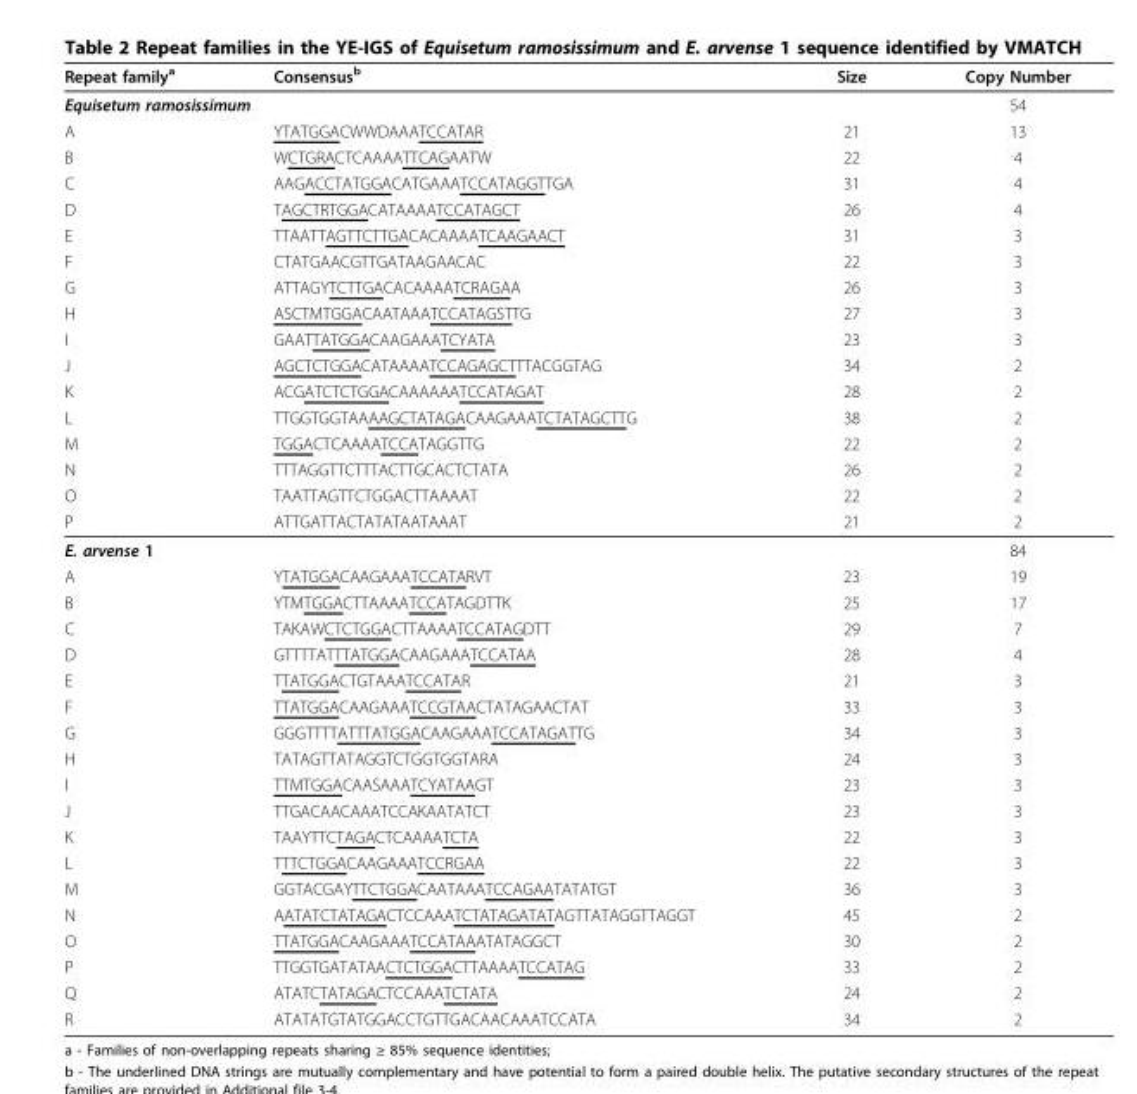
<table><thead><tr><td>Repeat family<sup>a</sup></td><td>Consensus<sup>b</sup></td><td>Size</td><td>Copy Number</td></tr></thead><tbody><tr><td colspan="2">Equisetum ramosissimum</td><td></td><td>54</td></tr><tr><td>A</td><td>YTATGGACWWDAAATCCATAR</td><td>21</td><td>13</td></tr><tr><td>B</td><td>WCTGRACTCAAAATTCAGAATW</td><td>22</td><td>4</td></tr><tr><td>C</td><td>AAGACCTATGGACATGAAATCCATAGGTTGA</td><td>31</td><td>4</td></tr><tr><td>D</td><td>TAGCTRTGGACATAAAATCCATAGCT</td><td>26</td><td>4</td></tr><tr><td>E</td><td>TTAATTAGTTCTTGACACAAAATCAAGAACT</td><td>31</td><td>3</td></tr><tr><td>F</td><td>CTATGAACGTTGATAAGAACAC</td><td>22</td><td>3</td></tr><tr><td>G</td><td>ATTAGYTCTTGACACAAAATCRAGAA</td><td>26</td><td>3</td></tr><tr><td>H</td><td>ASCTMTGGACAATAAATCCATAGSTTG</td><td>27</td><td>3</td></tr><tr><td>I</td><td>GAATTATGGACAAGAAATCYATA</td><td>23</td><td>3</td></tr><tr><td>J</td><td>AGCTCTGGACATAAAATCCAGAGCTTTACGGTAG</td><td>34</td><td>2</td></tr><tr><td>K</td><td>ACGATCTCTGGACAAAAAATCCATAGAT</td><td>28</td><td>2</td></tr><tr><td>L</td><td>TTGGTGGTAAAAGCTATAGACAAGAAATCTATAGCTTG</td><td>38</td><td>2</td></tr><tr><td>M</td><td>TGGACTCAAAATCCATAGGTTG</td><td>22</td><td>2</td></tr><tr><td>N</td><td>TTTAGGTTCTTTACTTGCACTCTATA</td><td>26</td><td>2</td></tr><tr><td>O</td><td>TAATTAGTTCTGGACTTAAAAT</td><td>22</td><td>2</td></tr><tr><td>P</td><td>ATTGATTACTATATAATAAAT</td><td>21</td><td>2</td></tr><tr><td colspan="2">E. arvense 1</td><td></td><td>84</td></tr><tr><td>A</td><td>YTATGGACAAGAAATCCATARVT</td><td>23</td><td>19</td></tr><tr><td>B</td><td>YTMTGGACTTAAAATCCATAGDTTK</td><td>25</td><td>17</td></tr><tr><td>C</td><td>TAKAWCTCTGGACTTAAAATCCATAGDTT</td><td>29</td><td>7</td></tr><tr><td>D</td><td>GTTTTATTTATGGACAAGAAATCCATAA</td><td>28</td><td>4</td></tr><tr><td>E</td><td>TTATGGACTGTAAATCCATAR</td><td>21</td><td>3</td></tr><tr><td>F</td><td>TTATGGACAAGAAATCCGTAACTATAGAACTAT</td><td>33</td><td>3</td></tr><tr><td>G</td><td>GGGTTTTATTTATGGACAAGAAATCCATAGATTG</td><td>34</td><td>3</td></tr><tr><td>H</td><td>TATAGTTATAGGTCTGGTGGTARA</td><td>24</td><td>3</td></tr><tr><td>I</td><td>TTMTGGACAASAAATCYATAAGT</td><td>23</td><td>3</td></tr><tr><td>J</td><td>TTGACAACAAATCCAKAATATCT</td><td>23</td><td>3</td></tr><tr><td>K</td><td>TAAYTTCTAGACTCAAAATCTA</td><td>22</td><td>3</td></tr><tr><td>L</td><td>TTTCTGGACAAGAAATCCRGAA</td><td>22</td><td>3</td></tr><tr><td>M</td><td>GGTACGAYTTCTGGACAATAAATCCAGAATATATGT</td><td>36</td><td>3</td></tr><tr><td>N</td><td>AATATCTATAGACTCCAAATCTATAGATATAGTTATAGGTTAGGT</td><td>45</td><td>2</td></tr><tr><td>O</td><td>TTATGGACAAGAAATCCATAAATATAGGCT</td><td>30</td><td>2</td></tr><tr><td>P</td><td>TTGGTGATATAACTCTGGACTTAAAATCCATAG</td><td>33</td><td>2</td></tr><tr><td>Q</td><td>ATATCTATAGACTCCAAATCTATA</td><td>24</td><td>2</td></tr><tr><td>R</td><td>ATATATGTATGGACCTGTTGACAACAAATCCATA</td><td>34</td><td>2</td></tr></tbody></table>